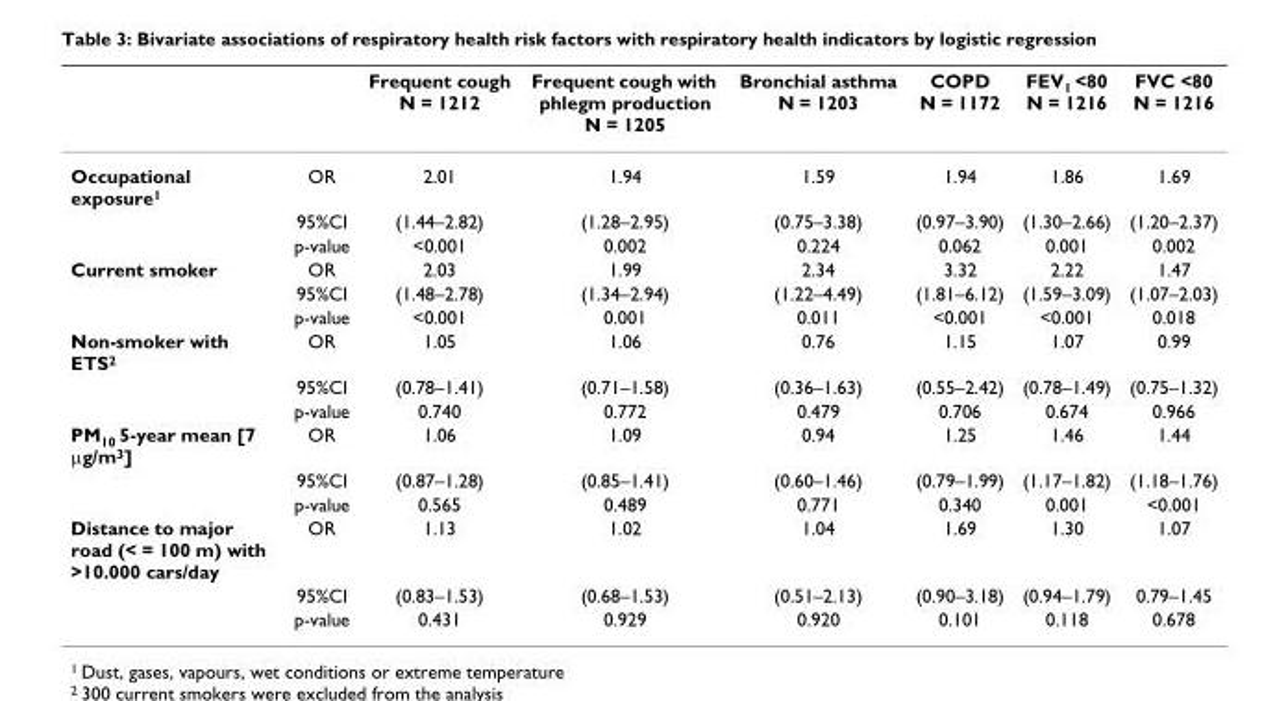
<table><thead><tr><td></td><td></td><td>Frequent cough N = 1212</td><td>Frequent cough with phlegm production N = 1205</td><td>Bronchial asthma N = 1203</td><td>COPD N = 1172</td><td>FEV<sub>1</sub> &lt;80 N = 1216</td><td>FVC &lt;80 N = 1216</td></tr></thead><tbody><tr><td rowspan="3">Occupational exposure<sup>1</sup></td><td>OR</td><td>2.01</td><td>1.94</td><td>1.59</td><td>1.94</td><td>1.86</td><td>1.69</td></tr><tr><td>95%CI</td><td>(1.44–2.82)</td><td>(1.28–2.95)</td><td>(0.75–3.38)</td><td>(0.97–3.90)</td><td>(1.30–2.66)</td><td>(1.20–2.37)</td></tr><tr><td>p-value</td><td>&lt;0.001</td><td>0.002</td><td>0.224</td><td>0.062</td><td>0.001</td><td>0.002</td></tr><tr><td rowspan="3">Current smoker</td><td>OR</td><td>2.03</td><td>1.99</td><td>2.34</td><td>3.32</td><td>2.22</td><td>1.47</td></tr><tr><td>95%CI</td><td>(1.48–2.78)</td><td>(1.34–2.94)</td><td>(1.22–4.49)</td><td>(1.81–6.12)</td><td>(1.59–3.09)</td><td>(1.07–2.03)</td></tr><tr><td>p-value</td><td>&lt;0.001</td><td>0.001</td><td>0.011</td><td>&lt;0.001</td><td>&lt;0.001</td><td>0.018</td></tr><tr><td rowspan="3">Non-smoker with ETS<sup>2</sup></td><td>OR</td><td>1.05</td><td>1.06</td><td>0.76</td><td>1.15</td><td>1.07</td><td>0.99</td></tr><tr><td>95%CI</td><td>(0.78–1.41)</td><td>(0.71–1.58)</td><td>(0.36–1.63)</td><td>(0.55–2.42)</td><td>(0.78–1.49)</td><td>(0.75–1.32)</td></tr><tr><td>p-value</td><td>0.740</td><td>0.772</td><td>0.479</td><td>0.706</td><td>0.674</td><td>0.966</td></tr><tr><td rowspan="3">PM<sub>10</sub> 5-year mean [7 μg/m<sup>3</sup>]</td><td>OR</td><td>1.06</td><td>1.09</td><td>0.94</td><td>1.25</td><td>1.46</td><td>1.44</td></tr><tr><td>95%CI</td><td>(0.87–1.28)</td><td>(0.85–1.41)</td><td>(0.60–1.46)</td><td>(0.79–1.99)</td><td>(1.17–1.82)</td><td>(1.18–1.76)</td></tr><tr><td>p-value</td><td>0.565</td><td>0.489</td><td>0.771</td><td>0.340</td><td>0.001</td><td>&lt;0.001</td></tr><tr><td rowspan="3">Distance to major road (&lt; = 100 m) with &gt;10.000 cars/day</td><td>OR</td><td>1.13</td><td>1.02</td><td>1.04</td><td>1.69</td><td>1.30</td><td>1.07</td></tr><tr><td>95%CI</td><td>(0.83–1.53)</td><td>(0.68–1.53)</td><td>(0.51–2.13)</td><td>(0.90–3.18)</td><td>(0.94–1.79)</td><td>0.79–1.45</td></tr><tr><td>p-value</td><td>0.431</td><td>0.929</td><td>0.920</td><td>0.101</td><td>0.118</td><td>0.678</td></tr></tbody></table>